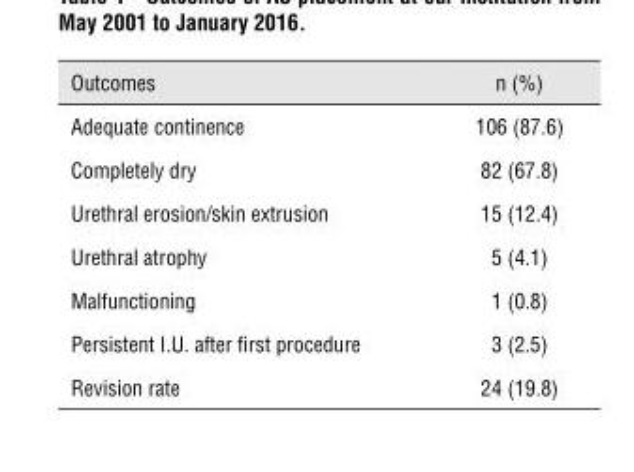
<table><thead><tr><td>Outcomes</td><td>n (%)</td></tr></thead><tbody><tr><td>Adequate continence</td><td>106 (87.6)</td></tr><tr><td>Completely dry</td><td>82 (67.8)</td></tr><tr><td>Urethral erosion/skin extrusion</td><td>15 (12.4)</td></tr><tr><td>Urethral atrophy</td><td>5 (4.1)</td></tr><tr><td>Malfunctioning</td><td>1 (0.8)</td></tr><tr><td>Persistent I.U. after first procedure</td><td>3 (2.5)</td></tr><tr><td>Revision rate</td><td>24 (19.8)</td></tr></tbody></table>